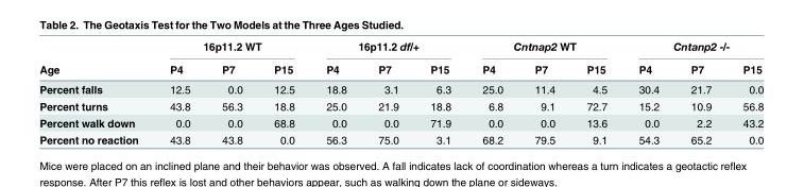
<table><thead><tr><td rowspan="2">Age</td><td colspan="3">16p11.2 WT</td><td colspan="3">16p11.2 df/+</td><td colspan="3">Cntnap2 WT</td><td colspan="3">Cntanp2 -/-</td></tr><tr><td>P4</td><td>P7</td><td>P15</td><td>P4</td><td>P7</td><td>P15</td><td>P4</td><td>P7</td><td>P15</td><td>P4</td><td>P7</td><td>P15</td></tr></thead><tbody><tr><td>Percent falls</td><td>12.5</td><td>0.0</td><td>12.5</td><td>18.8</td><td>3.1</td><td>6.3</td><td>25.0</td><td>11.4</td><td>4.5</td><td>30.4</td><td>21.7</td><td>0.0</td></tr><tr><td>Percent turns</td><td>43.8</td><td>56.3</td><td>18.8</td><td>25.0</td><td>21.9</td><td>18.8</td><td>6.8</td><td>9.1</td><td>72.7</td><td>15.2</td><td>10.9</td><td>56.8</td></tr><tr><td>Percent walk down</td><td>0.0</td><td>0.0</td><td>68.8</td><td>0.0</td><td>0.0</td><td>71.9</td><td>0.0</td><td>0.0</td><td>13.6</td><td>0.0</td><td>2.2</td><td>43.2</td></tr><tr><td>Percent no reaction</td><td>43.8</td><td>43.8</td><td>0.0</td><td>56.3</td><td>75.0</td><td>3.1</td><td>68.2</td><td>79.5</td><td>9.1</td><td>54.3</td><td>65.2</td><td>0.0</td></tr></tbody></table>